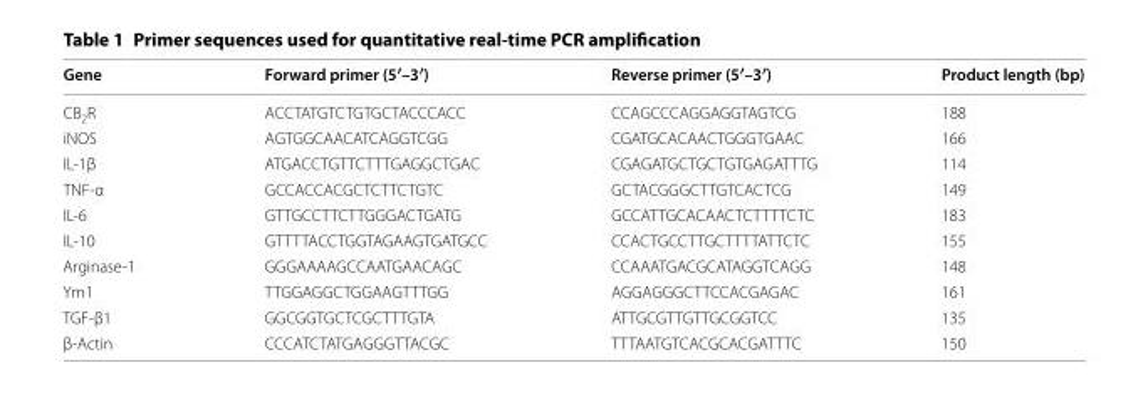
<table><thead><tr><td>Gene</td><td>Forward primer (5′–3′)</td><td>Reverse primer (5′–3′)</td><td>Product length (bp)</td></tr></thead><tbody><tr><td>CB<sub>2</sub>R</td><td>ACCTATGTCTGTGCTACCCACC</td><td>CCAGCCCAGGAGGTAGTCG</td><td>188</td></tr><tr><td>iNOS</td><td>AGTGGCAACATCAGGTCGG</td><td>CGATGCACAACTGGGTGAAC</td><td>166</td></tr><tr><td>IL‑1β</td><td>ATGACCTGTTCTTTGAGGCTGAC</td><td>CGAGATGCTGCTGTGAGATTTG</td><td>114</td></tr><tr><td>TNF‑α</td><td>GCCACCACGCTCTTCTGTC</td><td>GCTACGGGCTTGTCACTCG</td><td>149</td></tr><tr><td>IL‑6</td><td>GTTGCCTTCTTGGGACTGATG</td><td>GCCATTGCACAACTCTTTTCTC</td><td>183</td></tr><tr><td>IL‑10</td><td>GTTTTACCTGGTAGAAGTGATGCC</td><td>CCACTGCCTTGCTTTTATTCTC</td><td>155</td></tr><tr><td>Arginase‑1</td><td>GGGAAAAGCCAATGAACAGC</td><td>CCAAATGACGCATAGGTCAGG</td><td>148</td></tr><tr><td>Ym1</td><td>TTGGAGGCTGGAAGTTTGG</td><td>AGGAGGGCTTCCACGAGAC</td><td>161</td></tr><tr><td>TGF‑β1</td><td>GGCGGTGCTCGCTTTGTA</td><td>ATTGCGTTGTTGCGGTCC</td><td>135</td></tr><tr><td>β‑Actin</td><td>CCCATCTATGAGGGTTACGC</td><td>TTTAATGTCACGCACGATTTC</td><td>150</td></tr></tbody></table>